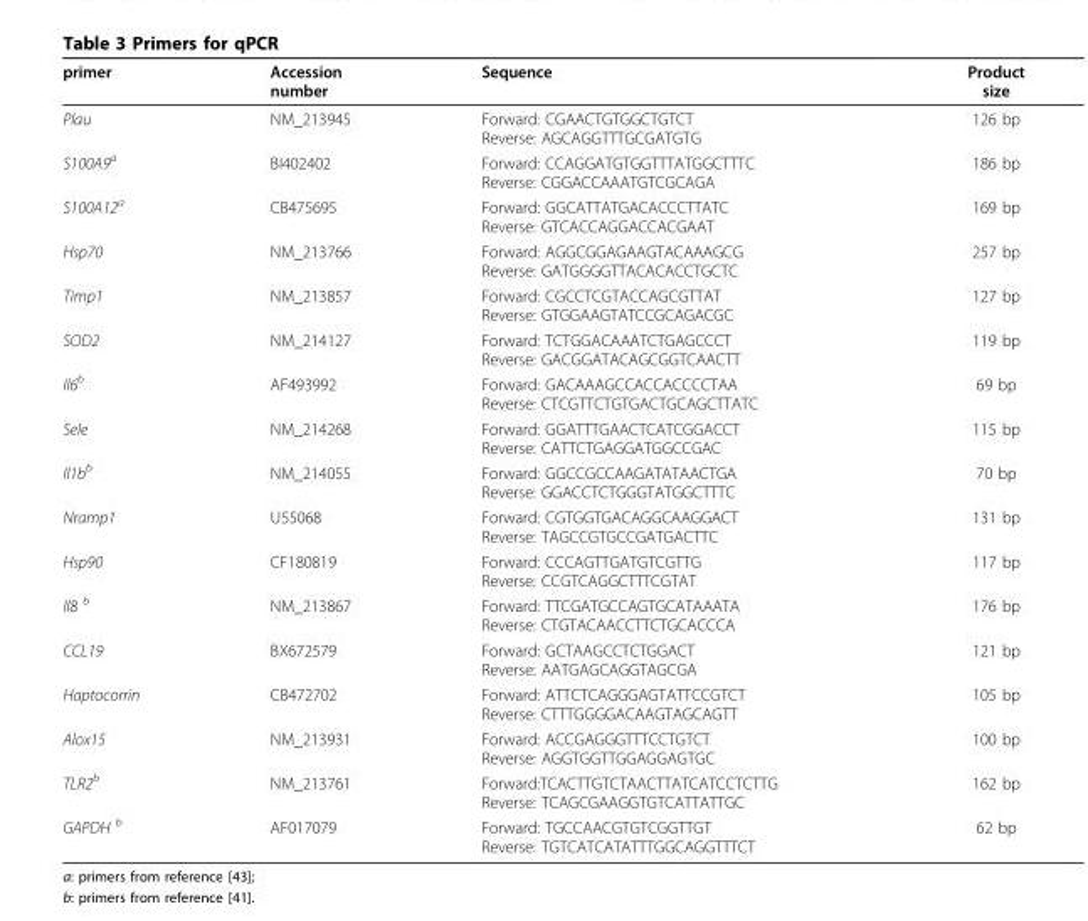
<table><thead><tr><td>primer</td><td>Accession number</td><td>Sequence</td><td>Product size</td></tr></thead><tbody><tr><td>Plau</td><td>NM_213945</td><td>Forward: CGAACTGTGGCTGTCT Reverse: AGCAGGTTTGCGATGTG</td><td>126 bp</td></tr><tr><td>S100A9<sup>a</sup></td><td>BI402402</td><td>Forward: CCAGGATGTGGTTTATGGCTTTC Reverse: CGGACCAAATGTCGCAGA</td><td>186 bp</td></tr><tr><td>S100A12<sup>a</sup></td><td>CB475695</td><td>Forward: GGCATTATGACACCCTTATC Reverse: GTCACCAGGACCACGAAT</td><td>169 bp</td></tr><tr><td>Hsp70</td><td>NM_213766</td><td>Forward: AGGCGGAGAAGTACAAAGCG Reverse: GATGGGGTTACACACCTGCTC</td><td>257 bp</td></tr><tr><td>Timp1</td><td>NM_213857</td><td>Forward: CGCCTCGTACCAGCGTTAT Reverse: GTGGAAGTATCCGCAGACGC</td><td>127 bp</td></tr><tr><td>SOD2</td><td>NM_214127</td><td>Forward: TCTGGACAAATCTGAGCCCT Reverse: GACGGATACAGCGGTCAACTT</td><td>119 bp</td></tr><tr><td>Il6<sup>b</sup></td><td>AF493992</td><td>Forward: GACAAAGCCACCACCCCTAA Reverse: CTCGTTCTGTGACTGCAGCTTATC</td><td>69 bp</td></tr><tr><td>Sele</td><td>NM_214268</td><td>Forward: GGATTTGAACTCATCGGACCT Reverse: CATTCTGAGGATGGCCGAC</td><td>115 bp</td></tr><tr><td>Il1b<sup>b</sup></td><td>NM_214055</td><td>Forward: GGCCGCCAAGATATAACTGA Reverse: GGACCTCTGGGTATGGCTTTC</td><td>70 bp</td></tr><tr><td>Nramp1</td><td>U55068</td><td>Forward: CGTGGTGACAGGCAAGGACT Reverse: TAGCCGTGCCGATGACTTC</td><td>131 bp</td></tr><tr><td>Hsp90</td><td>CF180819</td><td>Forward: CCCAGTTGATGTCGTTG Reverse: CCGTCAGGCTTTCGTAT</td><td>117 bp</td></tr><tr><td>Il8 <sup>b</sup></td><td>NM_213867</td><td>Forward: TTCGATGCCAGTGCATAAATA Reverse: CTGTACAACCTTCTGCACCCA</td><td>176 bp</td></tr><tr><td>CCL19</td><td>BX672579</td><td>Forward: GCTAAGCCTCTGGACT Reverse: AATGAGCAGGTAGCGA</td><td>121 bp</td></tr><tr><td>Haptocorrin</td><td>CB472702</td><td>Forward: ATTCTCAGGGAGTATTCCGTCT Reverse: CTTTGGGGACAAGTAGCAGTT</td><td>105 bp</td></tr><tr><td>Alox15</td><td>NM_213931</td><td>Forward: ACCGAGGGTTTCCTGTCT Reverse: AGGTGGTTGGAGGAGTGC</td><td>100 bp</td></tr><tr><td>TLR2<sup>b</sup></td><td>NM_213761</td><td>Forward:TCACTTGTCTAACTTATCATCCTCTTG Reverse: TCAGCGAAGGTGTCATTATTGC</td><td>162 bp</td></tr><tr><td>GAPDH <sup>b</sup></td><td>AF017079</td><td>Forward: TGCCAACGTGTCGGTTGT Reverse: TGTCATCATATTTGGCAGGTTTCT</td><td>62 bp</td></tr></tbody></table>